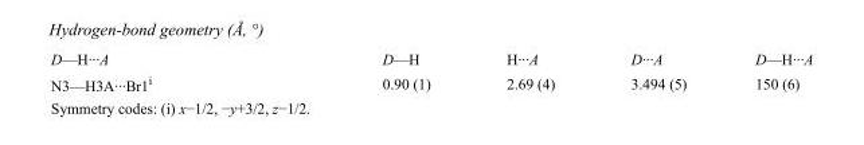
<table><tbody><tr><td>D—H···A</td><td>D—H</td><td>H···A</td><td>D···A</td><td>D—H···A</td></tr><tr><td>N3—H3A···Br1<sup>i</sup></td><td>0.90 (1)</td><td>2.69 (4)</td><td>3.494 (5)</td><td>150 (6)</td></tr></tbody></table>